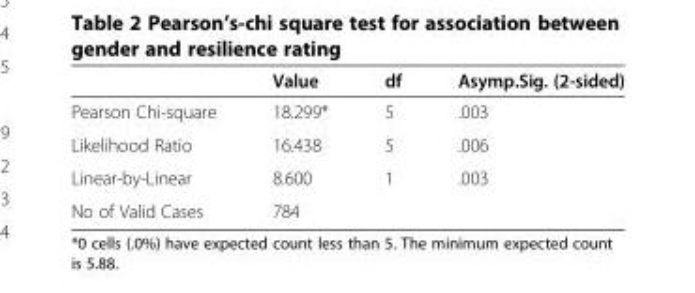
<table><thead><tr><td></td><td>Value</td><td>df</td><td>Asymp.Sig. (2-sided)</td></tr></thead><tbody><tr><td>Pearson Chi-square</td><td>18.299*</td><td>5</td><td>.003</td></tr><tr><td>Likelihood Ratio</td><td>16.438</td><td>5</td><td>.006</td></tr><tr><td>Linear-by-Linear</td><td>8.600</td><td>1</td><td>.003</td></tr><tr><td>No of Valid Cases</td><td>784</td><td></td><td></td></tr></tbody></table>